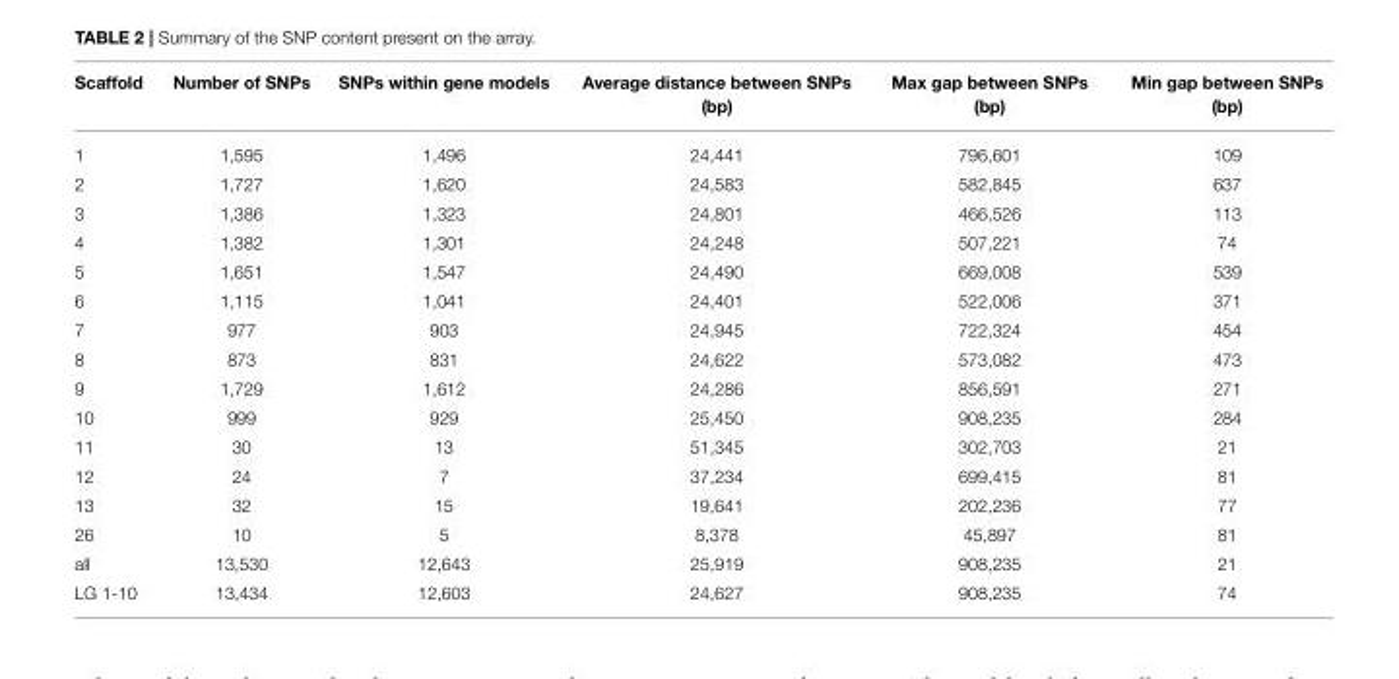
<table><thead><tr><td>Scaffold</td><td>Number of SNPs</td><td>SNPs within gene models</td><td>Average distance between SNPs (bp)</td><td>Max gap between SNPs (bp)</td><td>Min gap between SNPs (bp)</td></tr></thead><tbody><tr><td>1</td><td>1,595</td><td>1,496</td><td>24,441</td><td>796,601</td><td>109</td></tr><tr><td>2</td><td>1,727</td><td>1,620</td><td>24,583</td><td>582,845</td><td>637</td></tr><tr><td>3</td><td>1,386</td><td>1,323</td><td>24,801</td><td>466,526</td><td>113</td></tr><tr><td>4</td><td>1,382</td><td>1,301</td><td>24,248</td><td>507,221</td><td>74</td></tr><tr><td>5</td><td>1,651</td><td>1,547</td><td>24,490</td><td>669,008</td><td>539</td></tr><tr><td>6</td><td>1,115</td><td>1,041</td><td>24,401</td><td>522,006</td><td>371</td></tr><tr><td>7</td><td>977</td><td>903</td><td>24,945</td><td>722,324</td><td>454</td></tr><tr><td>8</td><td>873</td><td>831</td><td>24,622</td><td>573,082</td><td>473</td></tr><tr><td>9</td><td>1,729</td><td>1,612</td><td>24,286</td><td>856,591</td><td>271</td></tr><tr><td>10</td><td>999</td><td>929</td><td>25,450</td><td>908,235</td><td>284</td></tr><tr><td>11</td><td>30</td><td>13</td><td>51,345</td><td>302,703</td><td>21</td></tr><tr><td>12</td><td>24</td><td>7</td><td>37,234</td><td>699,415</td><td>81</td></tr><tr><td>13</td><td>32</td><td>15</td><td>19,641</td><td>202,236</td><td>77</td></tr><tr><td>26</td><td>10</td><td>5</td><td>8,378</td><td>45,897</td><td>81</td></tr><tr><td>all</td><td>13,530</td><td>12,643</td><td>25,919</td><td>908,235</td><td>21</td></tr><tr><td>LG 1-10</td><td>13,434</td><td>12,603</td><td>24,627</td><td>908,235</td><td>74</td></tr></tbody></table>